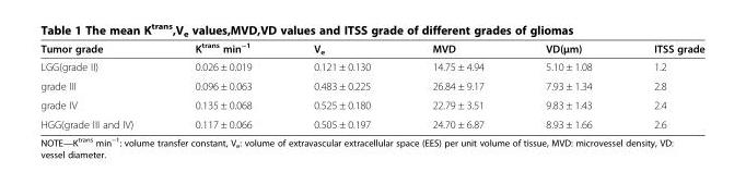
<table><thead><tr><td>Tumor grade</td><td>K<sup>trans</sup> min<sup>−1</sup></td><td>V<sub>e</sub></td><td>MVD</td><td>VD(μm)</td><td>ITSS grade</td></tr></thead><tbody><tr><td>LGG(grade II)</td><td>0.026 ± 0.019</td><td>0.121 ± 0.130</td><td>14.75 ± 4.94</td><td>5.10 ± 1.08</td><td>1.2</td></tr><tr><td>grade III</td><td>0.096 ± 0.063</td><td>0.483 ± 0.225</td><td>26.84 ± 9.17</td><td>7.93 ± 1.34</td><td>2.8</td></tr><tr><td>grade IV</td><td>0.135 ± 0.068</td><td>0.525 ± 0.180</td><td>22.79 ± 3.51</td><td>9.83 ± 1.43</td><td>2.4</td></tr><tr><td>HGG(grade III and IV)</td><td>0.117 ± 0.066</td><td>0.505 ± 0.197</td><td>24.70 ± 6.87</td><td>8.93 ± 1.66</td><td>2.6</td></tr></tbody></table>